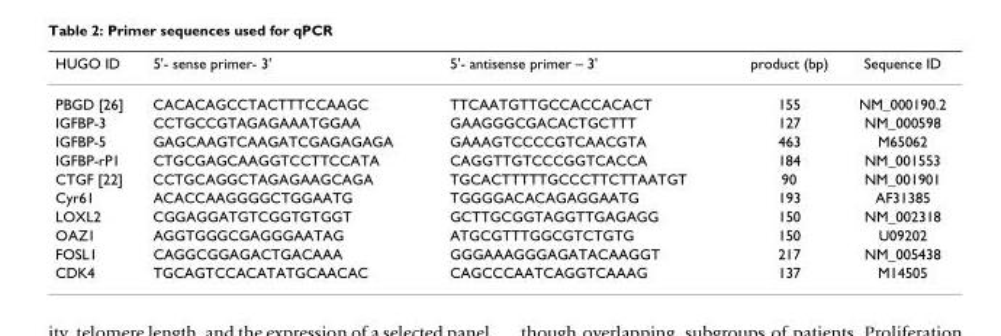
<table><thead><tr><td>HUGO ID</td><td>5&#x27;- sense primer- 3&#x27;</td><td>5&#x27;- antisense primer – 3&#x27;</td><td>product (bp)</td><td>Sequence ID</td></tr></thead><tbody><tr><td>PBGD [26]</td><td>CACACAGCCTACTTTCCAAGC</td><td>TTCAATGTTGCCACCACACT</td><td>155</td><td>NM_000190.2</td></tr><tr><td>IGFBP-3</td><td>CCTGCCGTAGAGAAATGGAA</td><td>GAAGGGCGACACTGCTTT</td><td>127</td><td>NM_000598</td></tr><tr><td>IGFBP-5</td><td>GAGCAAGTCAAGATCGAGAGAGA</td><td>GAAAGTCCCCGTCAACGTA</td><td>463</td><td>M65062</td></tr><tr><td>IGFBP-rP1</td><td>CTGCGAGCAAGGTCCTTCCATA</td><td>CAGGTTGTCCCGGTCACCA</td><td>184</td><td>NM_001553</td></tr><tr><td>CTGF [22]</td><td>CCTGCAGGCTAGAGAAGCAGA</td><td>TGCACTTTTTGCCCTTCTTAATGT</td><td>90</td><td>NM_001901</td></tr><tr><td>Cyr61</td><td>ACACCAAGGGGCTGGAATG</td><td>TGGGGACACAGAGGAATG</td><td>193</td><td>AF31385</td></tr><tr><td>LOXL2</td><td>CGGAGGATGTCGGTGTGGT</td><td>GCTTGCGGTAGGTTGAGAGG</td><td>150</td><td>NM_002318</td></tr><tr><td>OAZ1</td><td>AGGTGGGCGAGGGAATAG</td><td>ATGCGTTTGGCGTCTGTG</td><td>150</td><td>U09202</td></tr><tr><td>FOSL1</td><td>CAGGCGGAGACTGACAAA</td><td>GGGAAAGGGAGATACAAGGT</td><td>217</td><td>NM_005438</td></tr><tr><td>CDK4</td><td>TGCAGTCCACATATGCAACAC</td><td>CAGCCCAATCAGGTCAAAG</td><td>137</td><td>M14505</td></tr></tbody></table>